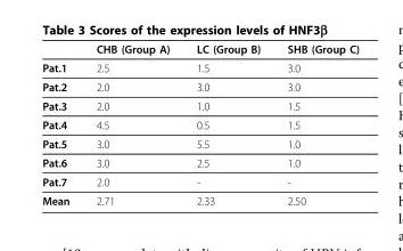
<table><thead><tr><td></td><td>CHB (Group A)</td><td>LC (Group B)</td><td>SHB (Group C)</td></tr></thead><tbody><tr><td>Pat.1</td><td>2.5</td><td>1.5</td><td>3.0</td></tr><tr><td>Pat.2</td><td>2.0</td><td>3.0</td><td>3.0</td></tr><tr><td>Pat.3</td><td>2.0</td><td>1.0</td><td>1.5</td></tr><tr><td>Pat.4</td><td>4.5</td><td>0.5</td><td>1.5</td></tr><tr><td>Pat.5</td><td>3.0</td><td>5.5</td><td>1.0</td></tr><tr><td>Pat.6</td><td>3.0</td><td>2.5</td><td>1.0</td></tr><tr><td>Pat.7</td><td>2.0</td><td>-</td><td>-</td></tr><tr><td>Mean</td><td>2.71</td><td>2.33</td><td>2.50</td></tr></tbody></table>